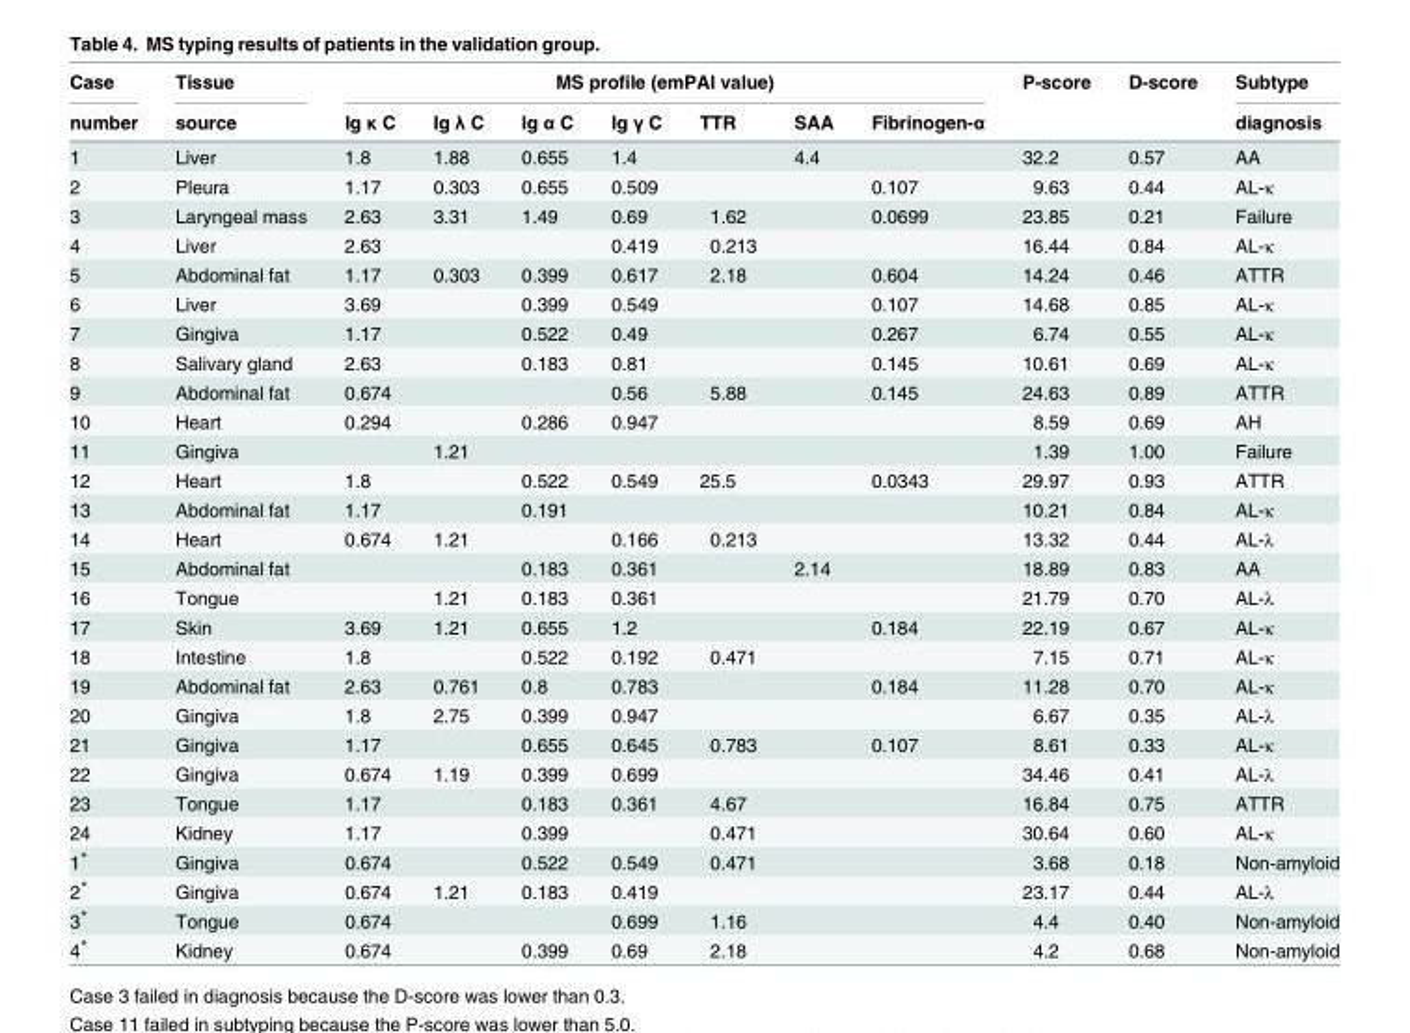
<table><thead><tr><td rowspan="2">Case number</td><td rowspan="2">Tissue source</td><td colspan="7">MS profile (emPAI value)</td><td rowspan="2">P-score</td><td rowspan="2">D-score</td><td rowspan="2">Subtype diagnosis</td></tr><tr><td>Ig κ C</td><td>Ig λ C</td><td>Ig α C</td><td>Ig γ C</td><td>TTR</td><td>SAA</td><td>Fibrinogen-α</td></tr></thead><tbody><tr><td>1</td><td>Liver</td><td>1.8</td><td>1.88</td><td>0.655</td><td>1.4</td><td></td><td>4.4</td><td></td><td>32.2</td><td>0.57</td><td>AA</td></tr><tr><td>2</td><td>Pleura</td><td>1.17</td><td>0.303</td><td>0.655</td><td>0.509</td><td></td><td></td><td>0.107</td><td>9.63</td><td>0.44</td><td>AL-κ</td></tr><tr><td>3</td><td>Laryngeal mass</td><td>2.63</td><td>3.31</td><td>1.49</td><td>0.69</td><td>1.62</td><td></td><td>0.0699</td><td>23.85</td><td>0.21</td><td>Failure</td></tr><tr><td>4</td><td>Liver</td><td>2.63</td><td></td><td></td><td>0.419</td><td>0.213</td><td></td><td></td><td>16.44</td><td>0.84</td><td>AL-κ</td></tr><tr><td>5</td><td>Abdominal fat</td><td>1.17</td><td>0.303</td><td>0.399</td><td>0.617</td><td>2.18</td><td></td><td>0.604</td><td>14.24</td><td>0.46</td><td>ATTR</td></tr><tr><td>6</td><td>Liver</td><td>3.69</td><td></td><td>0.399</td><td>0.549</td><td></td><td></td><td>0.107</td><td>14.68</td><td>0.85</td><td>AL-κ</td></tr><tr><td>7</td><td>Gingiva</td><td>1.17</td><td></td><td>0.522</td><td>0.49</td><td></td><td></td><td>0.267</td><td>6.74</td><td>0.55</td><td>AL-κ</td></tr><tr><td>8</td><td>Salivary gland</td><td>2.63</td><td></td><td>0.183</td><td>0.81</td><td></td><td></td><td>0.145</td><td>10.61</td><td>0.69</td><td>AL-κ</td></tr><tr><td>9</td><td>Abdominal fat</td><td>0.674</td><td></td><td></td><td>0.56</td><td>5.88</td><td></td><td>0.145</td><td>24.63</td><td>0.89</td><td>ATTR</td></tr><tr><td>10</td><td>Heart</td><td>0.294</td><td></td><td>0.286</td><td>0.947</td><td></td><td></td><td></td><td>8.59</td><td>0.69</td><td>AH</td></tr><tr><td>11</td><td>Gingiva</td><td></td><td>1.21</td><td></td><td></td><td></td><td></td><td></td><td>1.39</td><td>1.00</td><td>Failure</td></tr><tr><td>12</td><td>Heart</td><td>1.8</td><td></td><td>0.522</td><td>0.549</td><td>25.5</td><td></td><td>0.0343</td><td>29.97</td><td>0.93</td><td>ATTR</td></tr><tr><td>13</td><td>Abdominal fat</td><td>1.17</td><td></td><td>0.191</td><td></td><td></td><td></td><td></td><td>10.21</td><td>0.84</td><td>AL-κ</td></tr><tr><td>14</td><td>Heart</td><td>0.674</td><td>1.21</td><td></td><td>0.166</td><td>0.213</td><td></td><td></td><td>13.32</td><td>0.44</td><td>AL-λ</td></tr><tr><td>15</td><td>Abdominal fat</td><td></td><td></td><td>0.183</td><td>0.361</td><td></td><td>2.14</td><td></td><td>18.89</td><td>0.83</td><td>AA</td></tr><tr><td>16</td><td>Tongue</td><td></td><td>1.21</td><td>0.183</td><td>0.361</td><td></td><td></td><td></td><td>21.79</td><td>0.70</td><td>AL-λ</td></tr><tr><td>17</td><td>Skin</td><td>3.69</td><td>1.21</td><td>0.655</td><td>1.2</td><td></td><td></td><td>0.184</td><td>22.19</td><td>0.67</td><td>AL-κ</td></tr><tr><td>18</td><td>Intestine</td><td>1.8</td><td></td><td>0.522</td><td>0.192</td><td>0.471</td><td></td><td></td><td>7.15</td><td>0.71</td><td>AL-κ</td></tr><tr><td>19</td><td>Abdominal fat</td><td>2.63</td><td>0.761</td><td>0.8</td><td>0.783</td><td></td><td></td><td>0.184</td><td>11.28</td><td>0.70</td><td>AL-κ</td></tr><tr><td>20</td><td>Gingiva</td><td>1.8</td><td>2.75</td><td>0.399</td><td>0.947</td><td></td><td></td><td></td><td>6.67</td><td>0.35</td><td>AL-λ</td></tr><tr><td>21</td><td>Gingiva</td><td>1.17</td><td></td><td>0.655</td><td>0.645</td><td>0.783</td><td></td><td>0.107</td><td>8.61</td><td>0.33</td><td>AL-κ</td></tr><tr><td>22</td><td>Gingiva</td><td>0.674</td><td>1.19</td><td>0.399</td><td>0.699</td><td></td><td></td><td></td><td>34.46</td><td>0.41</td><td>AL-λ</td></tr><tr><td>23</td><td>Tongue</td><td>1.17</td><td></td><td>0.183</td><td>0.361</td><td>4.67</td><td></td><td></td><td>16.84</td><td>0.75</td><td>ATTR</td></tr><tr><td>24</td><td>Kidney</td><td>1.17</td><td></td><td>0.399</td><td></td><td>0.471</td><td></td><td></td><td>30.64</td><td>0.60</td><td>AL-κ</td></tr><tr><td>1*</td><td>Gingiva</td><td>0.674</td><td></td><td>0.522</td><td>0.549</td><td>0.471</td><td></td><td></td><td>3.68</td><td>0.18</td><td>Non-amyloid</td></tr><tr><td>2*</td><td>Gingiva</td><td>0.674</td><td>1.21</td><td>0.183</td><td>0.419</td><td></td><td></td><td></td><td>23.17</td><td>0.44</td><td>AL-λ</td></tr><tr><td>3*</td><td>Tongue</td><td>0.674</td><td></td><td></td><td>0.699</td><td>1.16</td><td></td><td></td><td>4.4</td><td>0.40</td><td>Non-amyloid</td></tr><tr><td>4*</td><td>Kidney</td><td>0.674</td><td></td><td>0.399</td><td>0.69</td><td>2.18</td><td></td><td></td><td>4.2</td><td>0.68</td><td>Non-amyloid</td></tr></tbody></table>